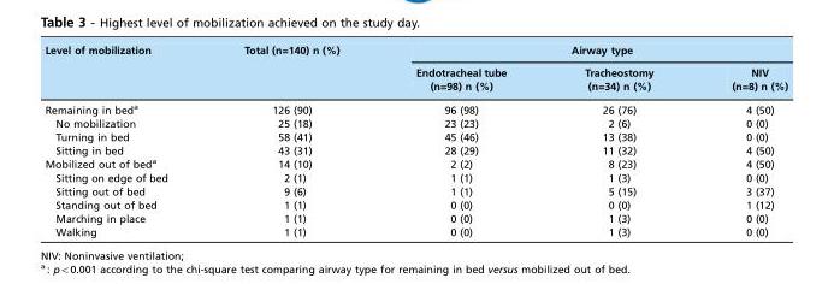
<table><thead><tr><td rowspan="2">Level of mobilization</td><td rowspan="2">Total (n=140) n (%)</td><td colspan="3">Airway type</td></tr><tr><td>Endotracheal tube (n=98) n (%)</td><td>Tracheostomy (n=34) n (%)</td><td>NIV (n=8) n (%)</td></tr></thead><tbody><tr><td>Remaining in bed<sup>a</sup></td><td>126 (90)</td><td>96 (98)</td><td>26 (76)</td><td>4 (50)</td></tr><tr><td>No mobilization</td><td>25 (18)</td><td>23 (23)</td><td>2 (6)</td><td>0 (0)</td></tr><tr><td>Turning in bed</td><td>58 (41)</td><td>45 (46)</td><td>13 (38)</td><td>0 (0)</td></tr><tr><td>Sitting in bed</td><td>43 (31)</td><td>28 (29)</td><td>11 (32)</td><td>4 (50)</td></tr><tr><td>Mobilized out of bed<sup>a</sup></td><td>14 (10)</td><td>2 (2)</td><td>8 (23)</td><td>4 (50)</td></tr><tr><td>Sitting on edge of bed</td><td>2 (1)</td><td>1 (1)</td><td>1 (3)</td><td>0 (0)</td></tr><tr><td>Sitting out of bed</td><td>9 (6)</td><td>1 (1)</td><td>5 (15)</td><td>3 (37)</td></tr><tr><td>Standing out of bed</td><td>1 (1)</td><td>0 (0)</td><td>0 (0)</td><td>1 (12)</td></tr><tr><td>Marching in place</td><td>1 (1)</td><td>0 (0)</td><td>1 (3)</td><td>0 (0)</td></tr><tr><td>Walking</td><td>1 (1)</td><td>0 (0)</td><td>1 (3)</td><td>0 (0)</td></tr></tbody></table>